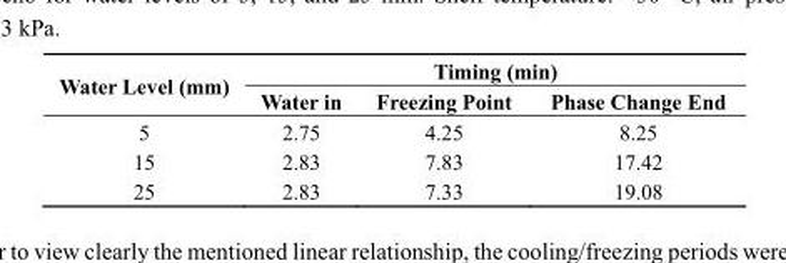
<table><thead><tr><td rowspan="2">Water Level (mm)</td><td colspan="3">Timing (min)</td></tr><tr><td>Water in</td><td>Freezing Point</td><td>Phase Change End</td></tr></thead><tbody><tr><td>5</td><td>2.75</td><td>4.25</td><td>8.25</td></tr><tr><td>15</td><td>2.83</td><td>7.83</td><td>17.42</td></tr><tr><td>25</td><td>2.83</td><td>7.33</td><td>19.08</td></tr></tbody></table>